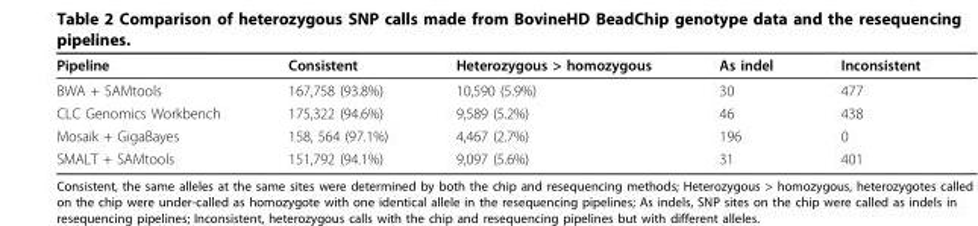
<table><thead><tr><td>Pipeline</td><td>Consistent</td><td>Heterozygous &gt; homozygous</td><td>As indel</td><td>Inconsistent</td></tr></thead><tbody><tr><td>BWA + SAMtools</td><td>167,758 (93.8%)</td><td>10,590 (5.9%)</td><td>30</td><td>477</td></tr><tr><td>CLC Genomics Workbench</td><td>175,322 (94.6%)</td><td>9,589 (5.2%)</td><td>46</td><td>438</td></tr><tr><td>Mosaik + GigaBayes</td><td>158, 564 (97.1%)</td><td>4,467 (2.7%)</td><td>196</td><td>0</td></tr><tr><td>SMALT + SAMtools</td><td>151,792 (94.1%)</td><td>9,097 (5.6%)</td><td>31</td><td>401</td></tr></tbody></table>